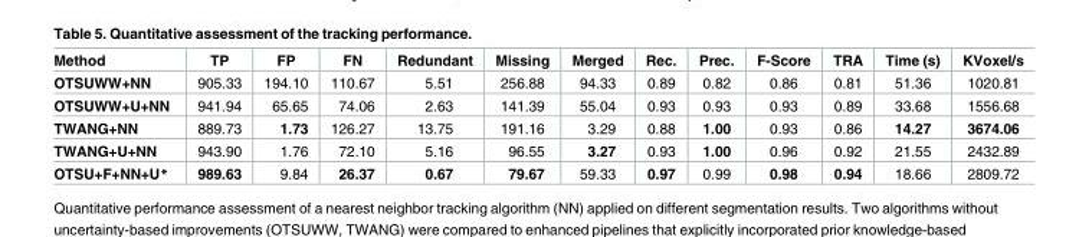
<table><thead><tr><td>Method</td><td>TP</td><td>FP</td><td>FN</td><td>Redundant</td><td>Missing</td><td>Merged</td><td>Rec.</td><td>Prec.</td><td>F-Score</td><td>TRA</td><td>Time (s)</td><td>KVoxel/s</td></tr></thead><tbody><tr><td>OTSUWW+NN</td><td>905.33</td><td>194.10</td><td>110.67</td><td>5.51</td><td>256.88</td><td>94.33</td><td>0.89</td><td>0.82</td><td>0.86</td><td>0.81</td><td>51.36</td><td>1020.81</td></tr><tr><td>OTSUWW+U+NN</td><td>941.94</td><td>65.65</td><td>74.06</td><td>2.63</td><td>141.39</td><td>55.04</td><td>0.93</td><td>0.93</td><td>0.93</td><td>0.89</td><td>33.68</td><td>1556.68</td></tr><tr><td>TWANG+NN</td><td>889.73</td><td>1.73</td><td>126.27</td><td>13.75</td><td>191.16</td><td>3.29</td><td>0.88</td><td>1.00</td><td>0.93</td><td>0.86</td><td>14.27</td><td>3674.06</td></tr><tr><td>TWANG+U+NN</td><td>943.90</td><td>1.76</td><td>72.10</td><td>5.16</td><td>96.55</td><td>3.27</td><td>0.93</td><td>1.00</td><td>0.96</td><td>0.92</td><td>21.55</td><td>2432.89</td></tr><tr><td>OTSU+F+NN+U*</td><td>989.63</td><td>9.84</td><td>26.37</td><td>0.67</td><td>79.67</td><td>59.33</td><td>0.97</td><td>0.99</td><td>0.98</td><td>0.94</td><td>18.66</td><td>2809.72</td></tr></tbody></table>